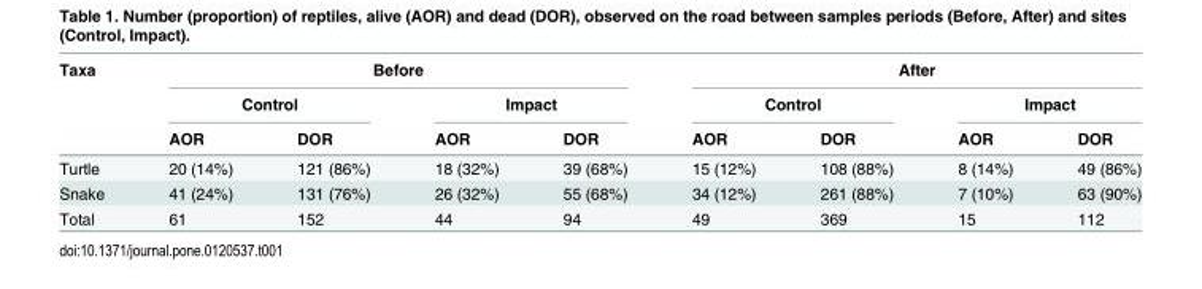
<table><thead><tr><td rowspan="3">Taxa</td><td colspan="4">Before</td><td colspan="4">After</td></tr><tr><td colspan="2">Control</td><td colspan="2">Impact</td><td colspan="2">Control</td><td colspan="2">Impact</td></tr><tr><td>AOR</td><td>DOR</td><td>AOR</td><td>DOR</td><td>AOR</td><td>DOR</td><td>AOR</td><td>DOR</td></tr></thead><tbody><tr><td>Turtle</td><td>20 (14%)</td><td>121 (86%)</td><td>18 (32%)</td><td>39 (68%)</td><td>15 (12%)</td><td>108 (88%)</td><td>8 (14%)</td><td>49 (86%)</td></tr><tr><td>Snake</td><td>41 (24%)</td><td>131 (76%)</td><td>26 (32%)</td><td>55 (68%)</td><td>34 (12%)</td><td>261 (88%)</td><td>7 (10%)</td><td>63 (90%)</td></tr><tr><td>Total</td><td>61</td><td>152</td><td>44</td><td>94</td><td>49</td><td>369</td><td>15</td><td>112</td></tr></tbody></table>